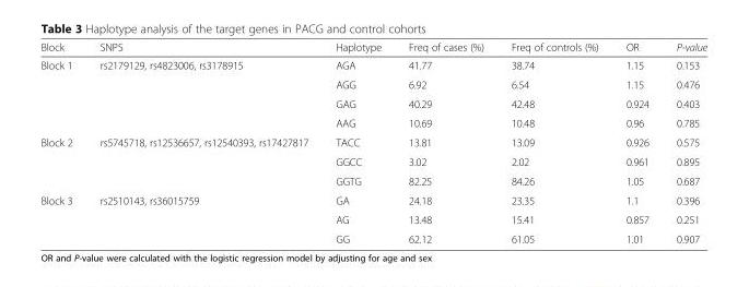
<table><thead><tr><td>Block</td><td>SNPS</td><td>Haplotype</td><td>Freq of cases (%)</td><td>Freq of controls (%)</td><td>OR</td><td>P-value</td></tr></thead><tbody><tr><td rowspan="4">Block 1</td><td rowspan="4">rs2179129, rs4823006, rs3178915</td><td>AGA</td><td>41.77</td><td>38.74</td><td>1.15</td><td>0.153</td></tr><tr><td>AGG</td><td>6.92</td><td>6.54</td><td>1.15</td><td>0.476</td></tr><tr><td>GAG</td><td>40.29</td><td>42.48</td><td>0.924</td><td>0.403</td></tr><tr><td>AAG</td><td>10.69</td><td>10.48</td><td>0.96</td><td>0.785</td></tr><tr><td rowspan="3">Block 2</td><td rowspan="3">rs5745718, rs12536657, rs12540393, rs17427817</td><td>TACC</td><td>13.81</td><td>13.09</td><td>0.926</td><td>0.575</td></tr><tr><td>GGCC</td><td>3.02</td><td>2.02</td><td>0.961</td><td>0.895</td></tr><tr><td>GGTG</td><td>82.25</td><td>84.26</td><td>1.05</td><td>0.687</td></tr><tr><td rowspan="3">Block 3</td><td rowspan="3">rs2510143, rs36015759</td><td>GA</td><td>24.18</td><td>23.35</td><td>1.1</td><td>0.396</td></tr><tr><td>AG</td><td>13.48</td><td>15.41</td><td>0.857</td><td>0.251</td></tr><tr><td>GG</td><td>62.12</td><td>61.05</td><td>1.01</td><td>0.907</td></tr></tbody></table>